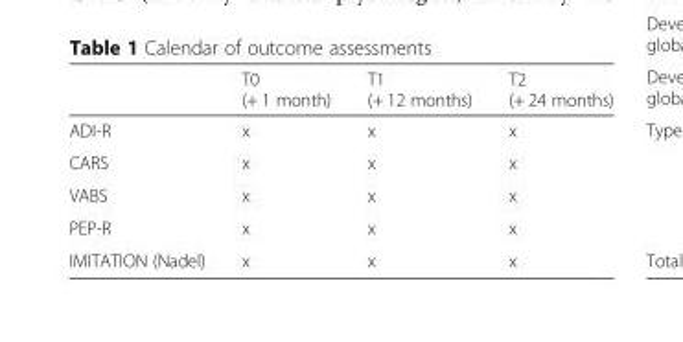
<table><thead><tr><td></td><td>T0 (+ 1 month)</td><td>T1 (+ 12 months)</td><td>T2 (+ 24 months)</td></tr></thead><tbody><tr><td>ADI-R</td><td>x</td><td>x</td><td>x</td></tr><tr><td>CARS</td><td>x</td><td>x</td><td>x</td></tr><tr><td>VABS</td><td>x</td><td>x</td><td>x</td></tr><tr><td>PEP-R</td><td>x</td><td>x</td><td>x</td></tr><tr><td>IMITATION (Nadel)</td><td>x</td><td>x</td><td>x</td></tr></tbody></table>